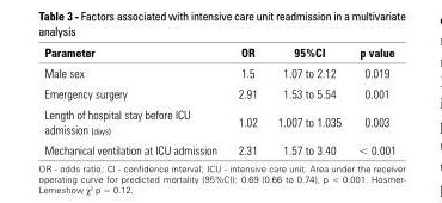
<table><thead><tr><td>Parameter</td><td>OR</td><td>95%CI</td><td>p value</td></tr></thead><tbody><tr><td>Male sex</td><td>1.5</td><td>1.07 to 2.12</td><td>0.019</td></tr><tr><td>Emergency surgery</td><td>2.91</td><td>1.53 to 5.54</td><td>0.001</td></tr><tr><td>Length of hospital stay before ICU admission (days)</td><td>1.02</td><td>1.007 to 1.035</td><td>0.003</td></tr><tr><td>Mechanical ventilation at ICU admission</td><td>2.31</td><td>1.57 to 3.40</td><td>&lt; 0.001</td></tr></tbody></table>